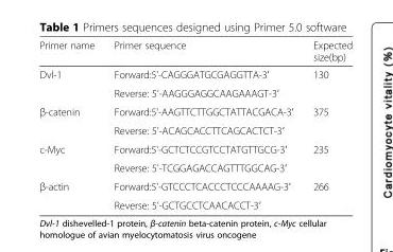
<table><thead><tr><td>Primer name</td><td>Primer sequence</td><td>Expected size(bp)</td></tr></thead><tbody><tr><td rowspan="2">Dvl-1</td><td>Forward:5&#x27;-CAGGGATGCGAGGTTA-3′</td><td rowspan="2">130</td></tr><tr><td>Reverse: 5&#x27;-AAGGGAGGCAAGAAAGT-3′</td></tr><tr><td rowspan="2">β-catenin</td><td>Forward:5&#x27;-AAGTTCTTGGCTATTACGACA-3′</td><td rowspan="2">375</td></tr><tr><td>Reverse: 5&#x27;-ACAGCACCTTCAGCACTCT-3′</td></tr><tr><td rowspan="2">c-Myc</td><td>Forward:5&#x27;-GCTCTCCGTCCTATGTTGCG-3′</td><td rowspan="2">235</td></tr><tr><td>Reverse: 5&#x27;-TCGGAGACCAGTTTGGCAG-3′</td></tr><tr><td rowspan="2">β-actin</td><td>Forward:5&#x27;-GTCCCTCACCCTCCCAAAAG-3′</td><td rowspan="2">266</td></tr><tr><td>Reverse: 5&#x27;-GCTGCCTCAACACCT-3′</td></tr></tbody></table>